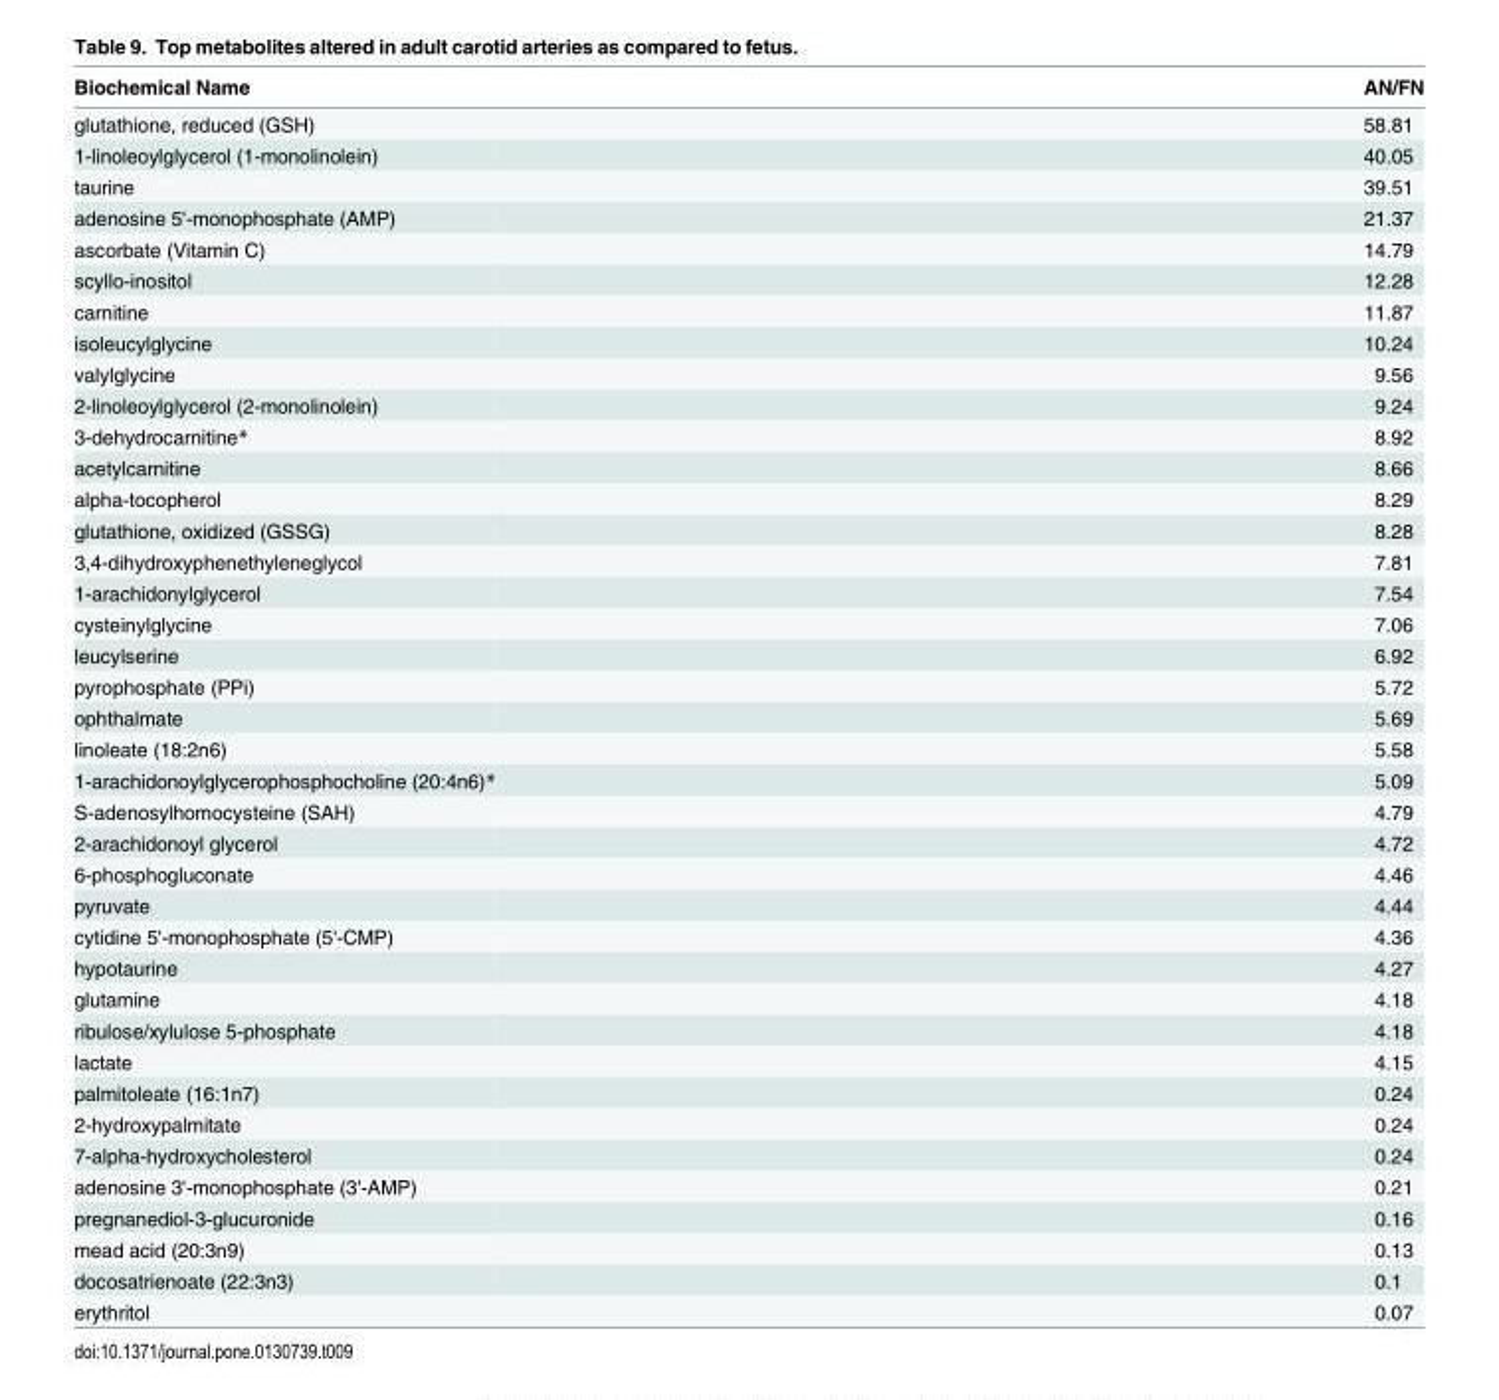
<table><thead><tr><td>Biochemical Name</td><td>AN/FN</td></tr></thead><tbody><tr><td>glutathione, reduced (GSH)</td><td>58.81</td></tr><tr><td>1-linoleoylglycerol (1-monolinolein)</td><td>40.05</td></tr><tr><td>taurine</td><td>39.51</td></tr><tr><td>adenosine 5&#x27;-monophosphate (AMP)</td><td>21.37</td></tr><tr><td>ascorbate (Vitamin C)</td><td>14.79</td></tr><tr><td>scyllo-inositol</td><td>12.28</td></tr><tr><td>carnitine</td><td>11.87</td></tr><tr><td>isoleucylglycine</td><td>10.24</td></tr><tr><td>valylglycine</td><td>9.56</td></tr><tr><td>2-linoleoylglycerol (2-monolinolein)</td><td>9.24</td></tr><tr><td>3-dehydrocarnitine*</td><td>8.92</td></tr><tr><td>acetylcarnitine</td><td>8.66</td></tr><tr><td>alpha-tocopherol</td><td>8.29</td></tr><tr><td>glutathione, oxidized (GSSG)</td><td>8.28</td></tr><tr><td>3,4-dihydroxyphenethyleneglycol</td><td>7.81</td></tr><tr><td>1-arachidonylglycerol</td><td>7.54</td></tr><tr><td>cysteinylglycine</td><td>7.06</td></tr><tr><td>leucylserine</td><td>6.92</td></tr><tr><td>pyrophosphate (PPi)</td><td>5.72</td></tr><tr><td>ophthalmate</td><td>5.69</td></tr><tr><td>linoleate (18:2n6)</td><td>5.58</td></tr><tr><td>1-arachidonoylglycerophosphocholine (20:4n6)*</td><td>5.09</td></tr><tr><td>S-adenosylhomocysteine (SAH)</td><td>4.79</td></tr><tr><td>2-arachidonoyl glycerol</td><td>4.72</td></tr><tr><td>6-phosphogluconate</td><td>4.46</td></tr><tr><td>pyruvate</td><td>4.44</td></tr><tr><td>cytidine 5&#x27;-monophosphate (5&#x27;-CMP)</td><td>4.36</td></tr><tr><td>hypotaurine</td><td>4.27</td></tr><tr><td>glutamine</td><td>4.18</td></tr><tr><td>ribulose/xylulose 5-phosphate</td><td>4.18</td></tr><tr><td>lactate</td><td>4.15</td></tr><tr><td>palmitoleate (16:1n7)</td><td>0.24</td></tr><tr><td>2-hydroxypalmitate</td><td>0.24</td></tr><tr><td>7-alpha-hydroxycholesterol</td><td>0.24</td></tr><tr><td>adenosine 3&#x27;-monophosphate (3&#x27;-AMP)</td><td>0.21</td></tr><tr><td>pregnanediol-3-glucuronide</td><td>0.16</td></tr><tr><td>mead acid (20:3n9)</td><td>0.13</td></tr><tr><td>docosatrienoate (22:3n3)</td><td>0.1</td></tr><tr><td>erythritol</td><td>0.07</td></tr></tbody></table>